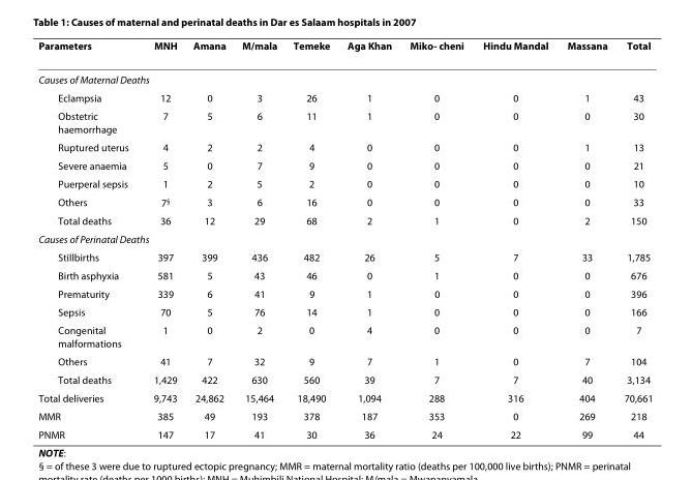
<table><thead><tr><td>Parameters</td><td>MNH</td><td>Amana</td><td>M/mala</td><td>Temeke</td><td>Aga Khan</td><td>Miko- cheni</td><td>Hindu Mandal</td><td>Massana</td><td>Total</td></tr></thead><tbody><tr><td colspan="10">Causes of Maternal Deaths</td></tr><tr><td>Eclampsia</td><td>12</td><td>0</td><td>3</td><td>26</td><td>1</td><td>0</td><td>0</td><td>1</td><td>43</td></tr><tr><td>Obstetric haemorrhage</td><td>7</td><td>5</td><td>6</td><td>11</td><td>1</td><td>0</td><td>0</td><td>0</td><td>30</td></tr><tr><td>Ruptured uterus</td><td>4</td><td>2</td><td>2</td><td>4</td><td>0</td><td>0</td><td>0</td><td>1</td><td>13</td></tr><tr><td>Severe anaemia</td><td>5</td><td>0</td><td>7</td><td>9</td><td>0</td><td>0</td><td>0</td><td>0</td><td>21</td></tr><tr><td>Puerperal sepsis</td><td>1</td><td>2</td><td>5</td><td>2</td><td>0</td><td>0</td><td>0</td><td>0</td><td>10</td></tr><tr><td>Others</td><td>7<sup>§</sup></td><td>3</td><td>6</td><td>16</td><td>0</td><td>0</td><td>0</td><td>0</td><td>33</td></tr><tr><td>Total deaths</td><td>36</td><td>12</td><td>29</td><td>68</td><td>2</td><td>1</td><td>0</td><td>2</td><td>150</td></tr><tr><td colspan="10">Causes of Perinatal Deaths</td></tr><tr><td>Stillbirths</td><td>397</td><td>399</td><td>436</td><td>482</td><td>26</td><td>5</td><td>7</td><td>33</td><td>1,785</td></tr><tr><td>Birth asphyxia</td><td>581</td><td>5</td><td>43</td><td>46</td><td>0</td><td>1</td><td>0</td><td>0</td><td>676</td></tr><tr><td>Prematurity</td><td>339</td><td>6</td><td>41</td><td>9</td><td>1</td><td>0</td><td>0</td><td>0</td><td>396</td></tr><tr><td>Sepsis</td><td>70</td><td>5</td><td>76</td><td>14</td><td>1</td><td>0</td><td>0</td><td>0</td><td>166</td></tr><tr><td>Congenital malformations</td><td>1</td><td>0</td><td>2</td><td>0</td><td>4</td><td>0</td><td>0</td><td>0</td><td>7</td></tr><tr><td>Others</td><td>41</td><td>7</td><td>32</td><td>9</td><td>7</td><td>1</td><td>0</td><td>7</td><td>104</td></tr><tr><td>Total deaths</td><td>1,429</td><td>422</td><td>630</td><td>560</td><td>39</td><td>7</td><td>7</td><td>40</td><td>3,134</td></tr><tr><td>Total deliveries</td><td>9,743</td><td>24,862</td><td>15,464</td><td>18,490</td><td>1,094</td><td>288</td><td>316</td><td>404</td><td>70,661</td></tr><tr><td>MMR</td><td>385</td><td>49</td><td>193</td><td>378</td><td>187</td><td>353</td><td>0</td><td>269</td><td>218</td></tr><tr><td>PNMR</td><td>147</td><td>17</td><td>41</td><td>30</td><td>36</td><td>24</td><td>22</td><td>99</td><td>44</td></tr></tbody></table>